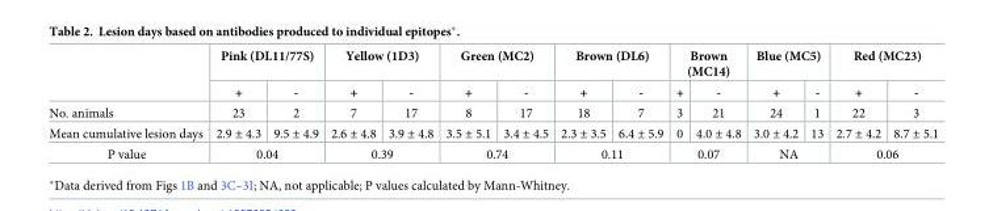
<table><thead><tr><td rowspan="2"></td><td colspan="2">Pink (DL11/77S)</td><td colspan="2">Yellow (1D3)</td><td colspan="2">Green (MC2)</td><td colspan="2">Brown (DL6)</td><td colspan="2">Brown (MC14)</td><td colspan="2">Blue (MC5)</td><td colspan="2">Red (MC23)</td></tr><tr><td>+</td><td>-</td><td>+</td><td>-</td><td>+</td><td>-</td><td>+</td><td>-</td><td>+</td><td>-</td><td>+</td><td>-</td><td>+</td><td>-</td></tr></thead><tbody><tr><td>No. animals</td><td>23</td><td>2</td><td>7</td><td>17</td><td>8</td><td>17</td><td>18</td><td>7</td><td>3</td><td>21</td><td>24</td><td>1</td><td>22</td><td>3</td></tr><tr><td>Mean cumulative lesion days</td><td>2.9 ± 4.3</td><td>9.5 ± 4.9</td><td>2.6 ± 4.8</td><td>3.9 ± 4.8</td><td>3.5 ± 5.1</td><td>3.4 ± 4.5</td><td>2.3 ± 3.5</td><td>6.4 ± 5.9</td><td>0</td><td>4.0 ± 4.8</td><td>3.0 ± 4.2</td><td>13</td><td>2.7 ± 4.2</td><td>8.7 ± 5.1</td></tr><tr><td>P value</td><td colspan="2">0.04</td><td colspan="2">0.39</td><td colspan="2">0.74</td><td colspan="2">0.11</td><td colspan="2">0.07</td><td colspan="2">NA</td><td colspan="2">0.06</td></tr></tbody></table>